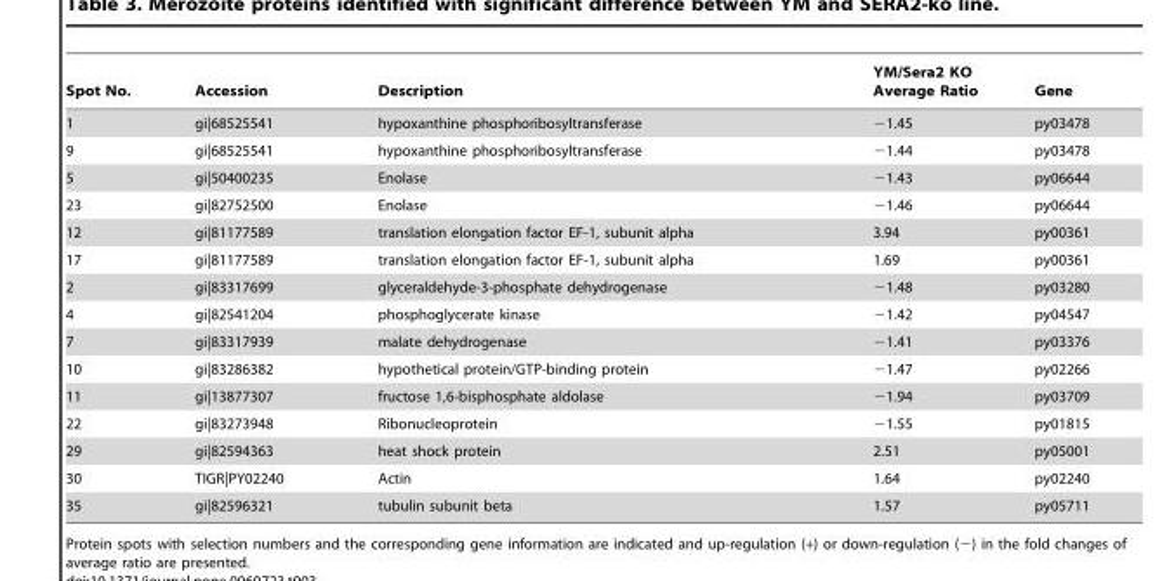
<table><thead><tr><td>Spot No.</td><td>Accession</td><td>Description</td><td>YM/Sera2 KO Average Ratio</td><td>Gene</td></tr></thead><tbody><tr><td>1</td><td>gi|68525541</td><td>hypoxanthine phosphoribosyltransferase</td><td>−1.45</td><td>py03478</td></tr><tr><td>9</td><td>gi|68525541</td><td>hypoxanthine phosphoribosyltransferase</td><td>−1.44</td><td>py03478</td></tr><tr><td>5</td><td>gi|50400235</td><td>Enolase</td><td>−1.43</td><td>py06644</td></tr><tr><td>23</td><td>gi|82752500</td><td>Enolase</td><td>−1.46</td><td>py06644</td></tr><tr><td>12</td><td>gi|81177589</td><td>translation elongation factor EF-1, subunit alpha</td><td>3.94</td><td>py00361</td></tr><tr><td>17</td><td>gi|81177589</td><td>translation elongation factor EF-1, subunit alpha</td><td>1.69</td><td>py00361</td></tr><tr><td>2</td><td>gi|83317699</td><td>glyceraldehyde-3-phosphate dehydrogenase</td><td>−1.48</td><td>py03280</td></tr><tr><td>4</td><td>gi|82541204</td><td>phosphoglycerate kinase</td><td>−1.42</td><td>py04547</td></tr><tr><td>7</td><td>gi|83317939</td><td>malate dehydrogenase</td><td>−1.41</td><td>py03376</td></tr><tr><td>10</td><td>gi|83286382</td><td>hypothetical protein/GTP-binding protein</td><td>−1.47</td><td>py02266</td></tr><tr><td>11</td><td>gi|13877307</td><td>fructose 1,6-bisphosphate aldolase</td><td>−1.94</td><td>py03709</td></tr><tr><td>22</td><td>gi|83273948</td><td>Ribonucleoprotein</td><td>−1.55</td><td>py01815</td></tr><tr><td>29</td><td>gi|82594363</td><td>heat shock protein</td><td>2.51</td><td>py05001</td></tr><tr><td>30</td><td>TIGR|PY02240</td><td>Actin</td><td>1.64</td><td>py02240</td></tr><tr><td>35</td><td>gi|82596321</td><td>tubulin subunit beta</td><td>1.57</td><td>py05711</td></tr></tbody></table>